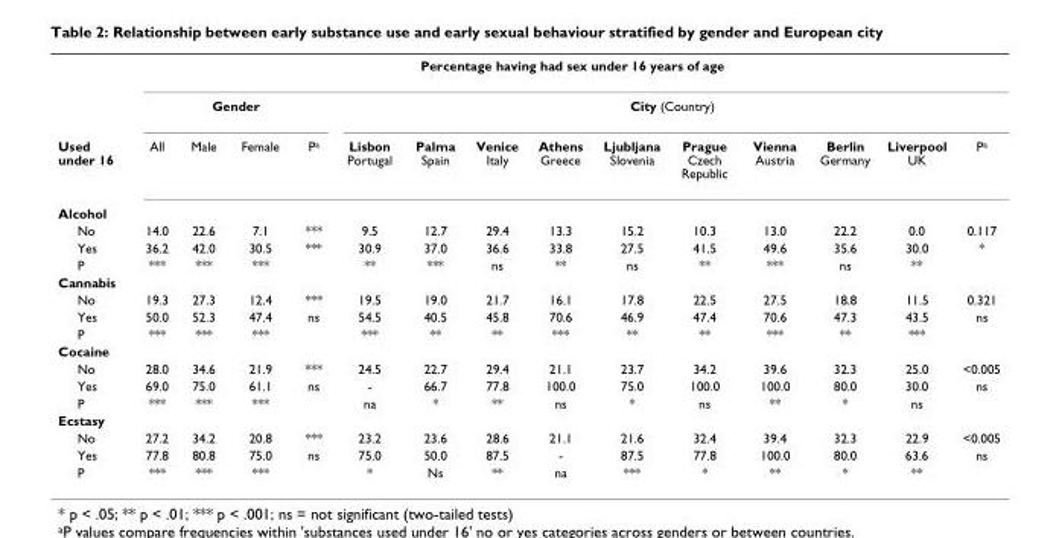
<table><thead><tr><td rowspan="3">Used under 16</td><td colspan="14">Percentage having had sex under 16 years of age</td></tr><tr><td colspan="4">Gender</td><td colspan="10">City (Country)</td></tr><tr><td>All</td><td>Male</td><td>Female</td><td>P<sup>a</sup></td><td>Lisbon Portugal</td><td>Palma Spain</td><td>Venice Italy</td><td>Athens Greece</td><td>Ljubljana Slovenia</td><td>Prague Czech Republic</td><td>Vienna Austria</td><td>Berlin Germany</td><td>Liverpool UK</td><td>P<sup>a</sup></td></tr></thead><tbody><tr><td colspan="15">Alcohol</td></tr><tr><td>No</td><td>14.0</td><td>22.6</td><td>7.1</td><td>***</td><td>9.5</td><td>12.7</td><td>29.4</td><td>13.3</td><td>15.2</td><td>10.3</td><td>13.0</td><td>22.2</td><td>0.0</td><td>0.117</td></tr><tr><td>Yes</td><td>36.2</td><td>42.0</td><td>30.5</td><td>***</td><td>30.9</td><td>37.0</td><td>36.6</td><td>33.8</td><td>27.5</td><td>41.5</td><td>49.6</td><td>35.6</td><td>30.0</td><td>*</td></tr><tr><td>P</td><td>***</td><td>***</td><td>***</td><td></td><td>**</td><td>***</td><td>ns</td><td>**</td><td>ns</td><td>**</td><td>***</td><td>ns</td><td>**</td><td></td></tr><tr><td colspan="15">Cannabis</td></tr><tr><td>No</td><td>19.3</td><td>27.3</td><td>12.4</td><td>***</td><td>19.5</td><td>19.0</td><td>21.7</td><td>16.1</td><td>17.8</td><td>22.5</td><td>27.5</td><td>18.8</td><td>11.5</td><td>0.321</td></tr><tr><td>Yes</td><td>50.0</td><td>52.3</td><td>47.4</td><td>ns</td><td>54.5</td><td>40.5</td><td>45.8</td><td>70.6</td><td>46.9</td><td>47.4</td><td>70.6</td><td>47.3</td><td>43.5</td><td>ns</td></tr><tr><td>P</td><td>***</td><td>***</td><td>***</td><td></td><td>***</td><td>**</td><td>**</td><td>***</td><td>**</td><td>**</td><td>***</td><td>**</td><td>***</td><td></td></tr><tr><td colspan="15">Cocaine</td></tr><tr><td>No</td><td>28.0</td><td>34.6</td><td>21.9</td><td>***</td><td>24.5</td><td>22.7</td><td>29.4</td><td>21.1</td><td>23.7</td><td>34.2</td><td>39.6</td><td>32.3</td><td>25.0</td><td>&lt;0.005</td></tr><tr><td>Yes</td><td>69.0</td><td>75.0</td><td>61.1</td><td>ns</td><td>-</td><td>66.7</td><td>77.8</td><td>100.0</td><td>75.0</td><td>100.0</td><td>100.0</td><td>80.0</td><td>30.0</td><td>ns</td></tr><tr><td>P</td><td>***</td><td>***</td><td>***</td><td></td><td>na</td><td>*</td><td>**</td><td>ns</td><td>*</td><td>ns</td><td>**</td><td>*</td><td>ns</td><td></td></tr><tr><td colspan="15">Ecstasy</td></tr><tr><td>No</td><td>27.2</td><td>34.2</td><td>20.8</td><td>***</td><td>23.2</td><td>23.6</td><td>28.6</td><td>21.1</td><td>21.6</td><td>32.4</td><td>39.4</td><td>32.3</td><td>22.9</td><td>&lt;0.005</td></tr><tr><td>Yes</td><td>77.8</td><td>80.8</td><td>75.0</td><td>ns</td><td>75.0</td><td>50.0</td><td>87.5</td><td>-</td><td>87.5</td><td>77.8</td><td>100.0</td><td>80.0</td><td>63.6</td><td>ns</td></tr><tr><td>P</td><td>***</td><td>***</td><td>***</td><td></td><td>*</td><td>Ns</td><td>**</td><td>na</td><td>***</td><td>*</td><td>**</td><td>*</td><td>**</td><td></td></tr></tbody></table>